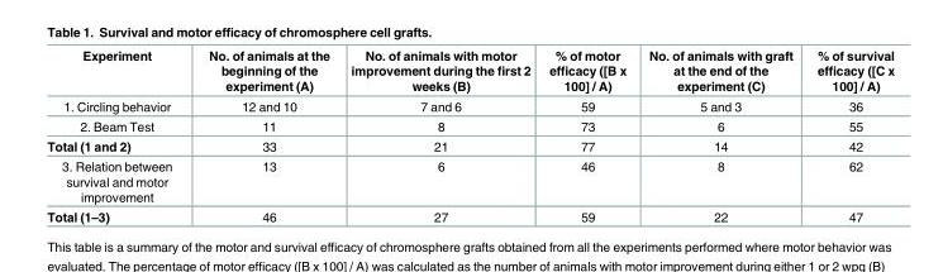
<table><thead><tr><td>Experiment</td><td>No. of animals at the beginning of the experiment (A)</td><td>No. of animals with motor improvement during the first 2 weeks (B)</td><td>% of motor efficacy ([B x 100] / A)</td><td>No. of animals with graft at the end of the experiment (C)</td><td>% of survival efficacy ([C x 100] / A)</td></tr></thead><tbody><tr><td>1. Circling behavior</td><td>12 and 10</td><td>7 and 6</td><td>59</td><td>5 and 3</td><td>36</td></tr><tr><td>2. Beam Test</td><td>11</td><td>8</td><td>73</td><td>6</td><td>55</td></tr><tr><td>Total (1 and 2)</td><td>33</td><td>21</td><td>77</td><td>14</td><td>42</td></tr><tr><td>3. Relation between survival and motor improvement</td><td>13</td><td>6</td><td>46</td><td>8</td><td>62</td></tr><tr><td>Total (1–3)</td><td>46</td><td>27</td><td>59</td><td>22</td><td>47</td></tr></tbody></table>